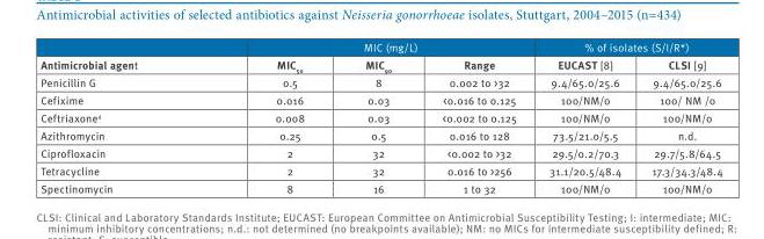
<table><thead><tr><td rowspan="2">Antimicrobial agent</td><td colspan="3">MIC (mg/L)</td><td colspan="2">% of isolates (S/I/R*)</td></tr><tr><td>MIC<sub>50</sub></td><td>MIC<sub>90</sub></td><td>Range</td><td>EUCAST [8]</td><td>CLSI [9]</td></tr></thead><tbody><tr><td>Penicillin G</td><td>0.5</td><td>8</td><td>0.002 to &gt;32</td><td>9.4/65.0/25.6</td><td>9.4/65.0/25.6</td></tr><tr><td>Cefixime</td><td>0.016</td><td>0.03</td><td>&lt;0.016 to 0.125</td><td>100/NM/0</td><td>100/ NM /0</td></tr><tr><td>Ceftriaxone<sup>a</sup></td><td>0.008</td><td>0.03</td><td>&lt;0.002 to 0.125</td><td>100/NM/0</td><td>100/NM/0</td></tr><tr><td>Azithromycin</td><td>0.25</td><td>0.5</td><td>0.016 to 128</td><td>73.5/21.0/5.5</td><td>n.d.</td></tr><tr><td>Ciprofloxacin</td><td>2</td><td>32</td><td>&lt;0.002 to &gt;32</td><td>29.5/0.2/70.3</td><td>29.7/5.8/64.5</td></tr><tr><td>Tetracycline</td><td>2</td><td>32</td><td>0.016 to &gt;256</td><td>31.1/20.5/48.4</td><td>17.3/34.3/48.4</td></tr><tr><td>Spectinomycin</td><td>8</td><td>16</td><td>1 to 32</td><td>100/NM/0</td><td>100/NM/0</td></tr></tbody></table>